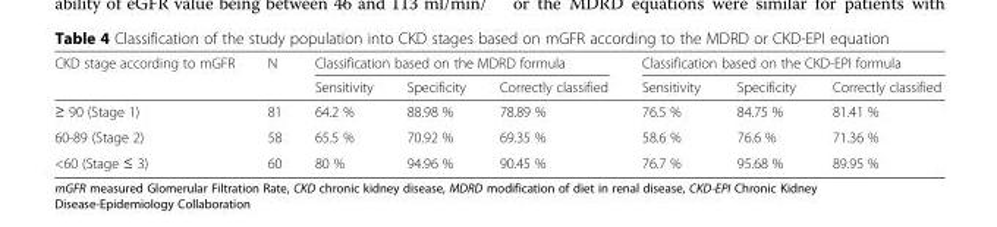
<table><thead><tr><td rowspan="2">CKD stage according to mGFR</td><td rowspan="2">N</td><td colspan="3">Classification based on the MDRD formula</td><td colspan="3">Classification based on the CKD-EPI formula</td></tr><tr><td>Sensitivity</td><td>Specificity</td><td>Correctly classified</td><td>Sensitivity</td><td>Specificity</td><td>Correctly classified</td></tr></thead><tbody><tr><td>≥ 90 (Stage 1)</td><td>81</td><td>64.2 %</td><td>88.98 %</td><td>78.89 %</td><td>76.5 %</td><td>84.75 %</td><td>81.41 %</td></tr><tr><td>60-89 (Stage 2)</td><td>58</td><td>65.5 %</td><td>70.92 %</td><td>69.35 %</td><td>58.6 %</td><td>76.6 %</td><td>71.36 %</td></tr><tr><td>&lt;60 (Stage ≤ 3)</td><td>60</td><td>80 %</td><td>94.96 %</td><td>90.45 %</td><td>76.7 %</td><td>95.68 %</td><td>89.95 %</td></tr></tbody></table>